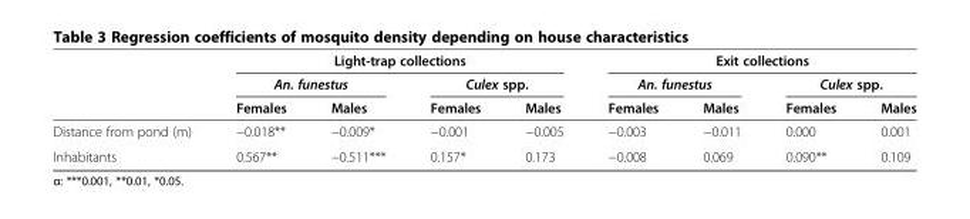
<table><thead><tr><td rowspan="3"></td><td colspan="4">Light-trap collections</td><td colspan="4">Exit collections</td></tr><tr><td colspan="2">An. funestus</td><td colspan="2">Culex spp.</td><td colspan="2">An. funestus</td><td colspan="2">Culex spp.</td></tr><tr><td>Females</td><td>Males</td><td>Females</td><td>Males</td><td>Females</td><td>Males</td><td>Females</td><td>Males</td></tr></thead><tbody><tr><td>Distance from pond (m)</td><td>−0.018**</td><td>−0.009*</td><td>−0.001</td><td>−0.005</td><td>−0.003</td><td>−0.011</td><td>0.000</td><td>0.001</td></tr><tr><td>Inhabitants</td><td>0.567**</td><td>−0.511***</td><td>0.157*</td><td>0.173</td><td>−0.008</td><td>0.069</td><td>0.090**</td><td>0.109</td></tr></tbody></table>